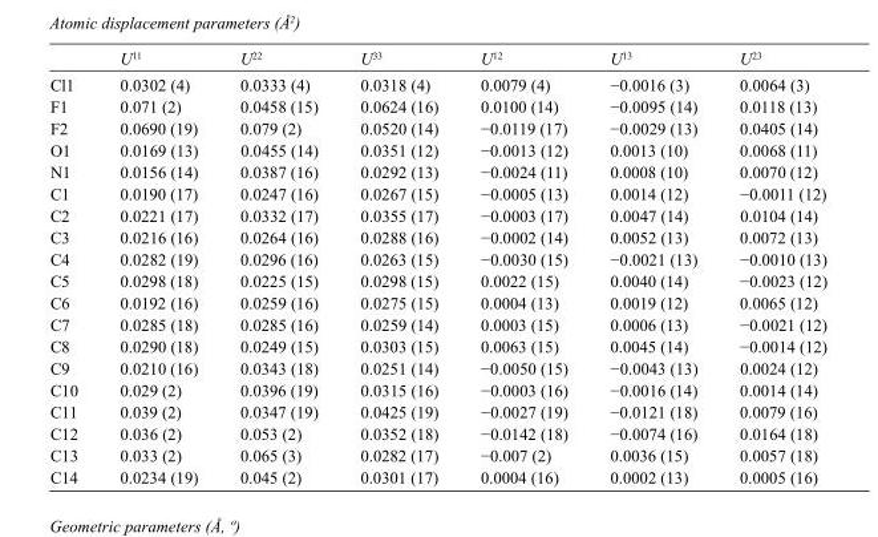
<table><thead><tr><td></td><td>U<sup>11</sup></td><td>U<sup>22</sup></td><td>U<sup>33</sup></td><td>U<sup>12</sup></td><td>U<sup>13</sup></td><td>U<sup>23</sup></td></tr></thead><tbody><tr><td>Cl1</td><td>0.0302 (4)</td><td>0.0333 (4)</td><td>0.0318 (4)</td><td>0.0079 (4)</td><td>−0.0016 (3)</td><td>0.0064 (3)</td></tr><tr><td>F1</td><td>0.071 (2)</td><td>0.0458 (15)</td><td>0.0624 (16)</td><td>0.0100 (14)</td><td>−0.0095 (14)</td><td>0.0118 (13)</td></tr><tr><td>F2</td><td>0.0690 (19)</td><td>0.079 (2)</td><td>0.0520 (14)</td><td>−0.0119 (17)</td><td>−0.0029 (13)</td><td>0.0405 (14)</td></tr><tr><td>O1</td><td>0.0169 (13)</td><td>0.0455 (14)</td><td>0.0351 (12)</td><td>−0.0013 (12)</td><td>0.0013 (10)</td><td>0.0068 (11)</td></tr><tr><td>N1</td><td>0.0156 (14)</td><td>0.0387 (16)</td><td>0.0292 (13)</td><td>−0.0024 (11)</td><td>0.0008 (10)</td><td>0.0070 (12)</td></tr><tr><td>C1</td><td>0.0190 (17)</td><td>0.0247 (16)</td><td>0.0267 (15)</td><td>−0.0005 (13)</td><td>0.0014 (12)</td><td>−0.0011 (12)</td></tr><tr><td>C2</td><td>0.0221 (17)</td><td>0.0332 (17)</td><td>0.0355 (17)</td><td>−0.0003 (17)</td><td>0.0047 (14)</td><td>0.0104 (14)</td></tr><tr><td>C3</td><td>0.0216 (16)</td><td>0.0264 (16)</td><td>0.0288 (16)</td><td>−0.0002 (14)</td><td>0.0052 (13)</td><td>0.0072 (13)</td></tr><tr><td>C4</td><td>0.0282 (19)</td><td>0.0296 (16)</td><td>0.0263 (15)</td><td>−0.0030 (15)</td><td>−0.0021 (13)</td><td>−0.0010 (13)</td></tr><tr><td>C5</td><td>0.0298 (18)</td><td>0.0225 (15)</td><td>0.0298 (15)</td><td>0.0022 (15)</td><td>0.0040 (14)</td><td>−0.0023 (12)</td></tr><tr><td>C6</td><td>0.0192 (16)</td><td>0.0259 (16)</td><td>0.0275 (15)</td><td>0.0004 (13)</td><td>0.0019 (12)</td><td>0.0065 (12)</td></tr><tr><td>C7</td><td>0.0285 (18)</td><td>0.0285 (16)</td><td>0.0259 (14)</td><td>0.0003 (15)</td><td>0.0006 (13)</td><td>−0.0021 (12)</td></tr><tr><td>C8</td><td>0.0290 (18)</td><td>0.0249 (15)</td><td>0.0303 (15)</td><td>0.0063 (15)</td><td>0.0045 (14)</td><td>−0.0014 (12)</td></tr><tr><td>C9</td><td>0.0210 (16)</td><td>0.0343 (18)</td><td>0.0251 (14)</td><td>−0.0050 (15)</td><td>−0.0043 (13)</td><td>0.0024 (12)</td></tr><tr><td>C10</td><td>0.029 (2)</td><td>0.0396 (19)</td><td>0.0315 (16)</td><td>−0.0003 (16)</td><td>−0.0016 (14)</td><td>0.0014 (14)</td></tr><tr><td>C11</td><td>0.039 (2)</td><td>0.0347 (19)</td><td>0.0425 (19)</td><td>−0.0027 (19)</td><td>−0.0121 (18)</td><td>0.0079 (16)</td></tr><tr><td>C12</td><td>0.036 (2)</td><td>0.053 (2)</td><td>0.0352 (18)</td><td>−0.0142 (18)</td><td>−0.0074 (16)</td><td>0.0164 (18)</td></tr><tr><td>C13</td><td>0.033 (2)</td><td>0.065 (3)</td><td>0.0282 (17)</td><td>−0.007 (2)</td><td>0.0036 (15)</td><td>0.0057 (18)</td></tr><tr><td>C14</td><td>0.0234 (19)</td><td>0.045 (2)</td><td>0.0301 (17)</td><td>0.0004 (16)</td><td>0.0002 (13)</td><td>0.0005 (16)</td></tr></tbody></table>